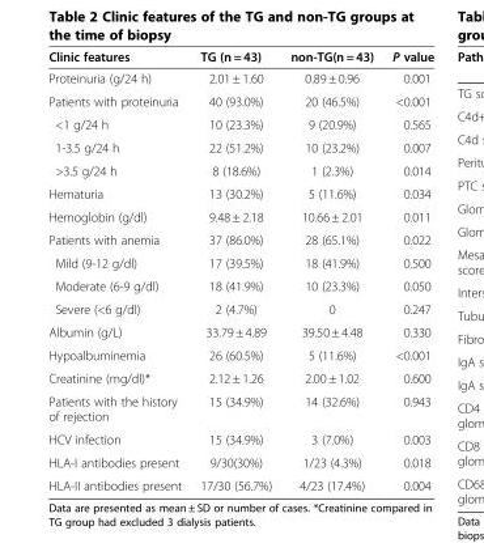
<table><thead><tr><td>Clinic features</td><td>TG (n = 43)</td><td>non-TG(n = 43)</td><td>P value</td></tr></thead><tbody><tr><td>Proteinuria (g/24 h)</td><td>2.01 ± 1.60</td><td>0.89 ± 0.96</td><td>0.001</td></tr><tr><td>Patients with proteinuria</td><td>40 (93.0%)</td><td>20 (46.5%)</td><td>&lt;0.001</td></tr><tr><td>&lt;1 g/24 h</td><td>10 (23.3%)</td><td>9 (20.9%)</td><td>0.565</td></tr><tr><td>1-3.5 g/24 h</td><td>22 (51.2%)</td><td>10 (23.2%)</td><td>0.007</td></tr><tr><td>&gt;3.5 g/24 h</td><td>8 (18.6%)</td><td>1 (2.3%)</td><td>0.014</td></tr><tr><td>Hematuria</td><td>13 (30.2%)</td><td>5 (11.6%)</td><td>0.034</td></tr><tr><td>Hemoglobin (g/dl)</td><td>9.48 ± 2.18</td><td>10.66 ± 2.01</td><td>0.011</td></tr><tr><td>Patients with anemia</td><td>37 (86.0%)</td><td>28 (65.1%)</td><td>0.022</td></tr><tr><td>Mild (9-12 g/dl)</td><td>17 (39.5%)</td><td>18 (41.9%)</td><td>0.500</td></tr><tr><td>Moderate (6-9 g/dl)</td><td>18 (41.9%)</td><td>10 (23.3%)</td><td>0.050</td></tr><tr><td>Severe (&lt;6 g/dl)</td><td>2 (4.7%)</td><td>0</td><td>0.247</td></tr><tr><td>Albumin (g/L)</td><td>33.79 ± 4.89</td><td>39.50 ± 4.48</td><td>0.330</td></tr><tr><td>Hypoalbuminemia</td><td>26 (60.5%)</td><td>5 (11.6%)</td><td>&lt;0.001</td></tr><tr><td>Creatinine (mg/dl)*</td><td>2.12 ± 1.26</td><td>2.00 ± 1.02</td><td>0.600</td></tr><tr><td>Patients with the history of rejection</td><td>15 (34.9%)</td><td>14 (32.6%)</td><td>0.943</td></tr><tr><td>HCV infection</td><td>15 (34.9%)</td><td>3 (7.0%)</td><td>0.003</td></tr><tr><td>HLA-I antibodies present</td><td>9/30(30%)</td><td>1/23 (4.3%)</td><td>0.018</td></tr><tr><td>HLA-II antibodies present</td><td>17/30 (56.7%)</td><td>4/23 (17.4%)</td><td>0.004</td></tr></tbody></table>